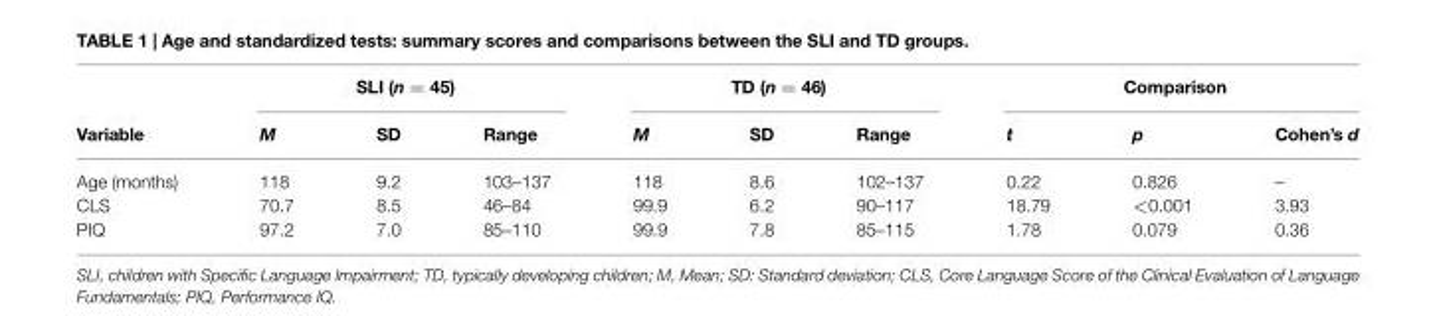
<table><thead><tr><td rowspan="2">Variable</td><td colspan="3">SLI (n = 45)</td><td colspan="3">TD (n = 46)</td><td colspan="3">Comparison</td></tr><tr><td>M</td><td>SD</td><td>Range</td><td>M</td><td>SD</td><td>Range</td><td>t</td><td>p</td><td>Cohen’s d</td></tr></thead><tbody><tr><td>Age (months)</td><td>118</td><td>9.2</td><td>103–137</td><td>118</td><td>8.6</td><td>102–137</td><td>0.22</td><td>0.826</td><td>–</td></tr><tr><td>CLS</td><td>70.7</td><td>8.5</td><td>46–84</td><td>99.9</td><td>6.2</td><td>90–117</td><td>18.79</td><td>&lt;0.001</td><td>3.93</td></tr><tr><td>PIQ</td><td>97.2</td><td>7.0</td><td>85–110</td><td>99.9</td><td>7.8</td><td>85–115</td><td>1.78</td><td>0.079</td><td>0.36</td></tr></tbody></table>